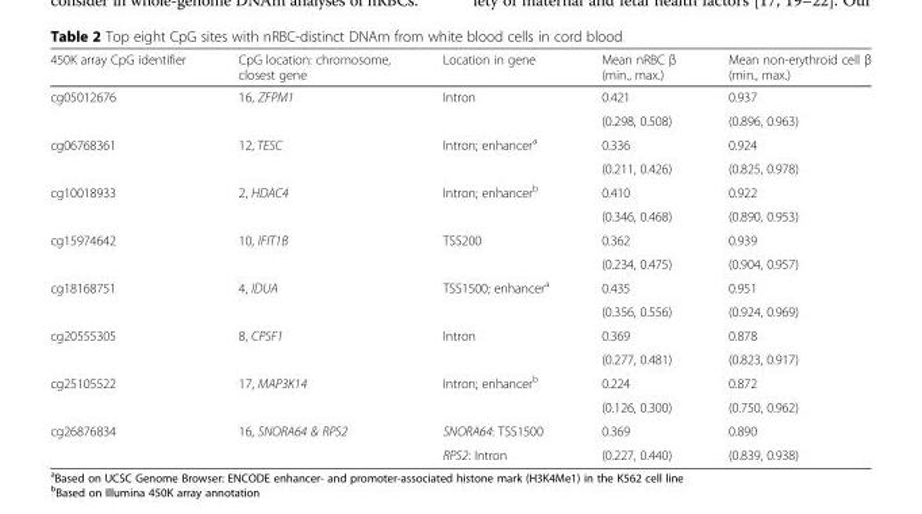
<table><thead><tr><td>450K array CpG identifier</td><td>CpG location: chromosome, closest gene</td><td>Location in gene</td><td>Mean nRBC β (min., max.)</td><td>Mean non-erythroid cell β (min., max.)</td></tr></thead><tbody><tr><td rowspan="2">cg05012676</td><td rowspan="2">16, ZFPM1</td><td rowspan="2">Intron</td><td>0.421</td><td>0.937</td></tr><tr><td>(0.298, 0.508)</td><td>(0.896, 0.963)</td></tr><tr><td rowspan="2">cg06768361</td><td rowspan="2">12, TESC</td><td rowspan="2">Intron; enhancer<sup>a</sup></td><td>0.336</td><td>0.924</td></tr><tr><td>(0.211, 0.426)</td><td>(0.825, 0.978)</td></tr><tr><td rowspan="2">cg10018933</td><td rowspan="2">2, HDAC4</td><td rowspan="2">Intron; enhancer<sup>b</sup></td><td>0.410</td><td>0.922</td></tr><tr><td>(0.346, 0.468)</td><td>(0.890, 0.953)</td></tr><tr><td rowspan="2">cg15974642</td><td rowspan="2">10, IFIT1B</td><td rowspan="2">TSS200</td><td>0.362</td><td>0.939</td></tr><tr><td>(0.234, 0.475)</td><td>(0.904, 0.957)</td></tr><tr><td rowspan="2">cg18168751</td><td rowspan="2">4, IDUA</td><td rowspan="2">TSS1500; enhancer<sup>a</sup></td><td>0.435</td><td>0.951</td></tr><tr><td>(0.356, 0.556)</td><td>(0.924, 0.969)</td></tr><tr><td rowspan="2">cg20555305</td><td rowspan="2">8, CPSF1</td><td rowspan="2">Intron</td><td>0.369</td><td>0.878</td></tr><tr><td>(0.277, 0.481)</td><td>(0.823, 0.917)</td></tr><tr><td rowspan="2">cg25105522</td><td rowspan="2">17, MAP3K14</td><td rowspan="2">Intron; enhancer<sup>b</sup></td><td>0.224</td><td>0.872</td></tr><tr><td>(0.126, 0.300)</td><td>(0.750, 0.962)</td></tr><tr><td rowspan="2">cg26876834</td><td rowspan="2">16, SNORA64 &amp; RPS2</td><td>SNORA64: TSS1500</td><td>0.369</td><td>0.890</td></tr><tr><td>RPS2: Intron</td><td>(0.227, 0.440)</td><td>(0.839, 0.938)</td></tr></tbody></table>